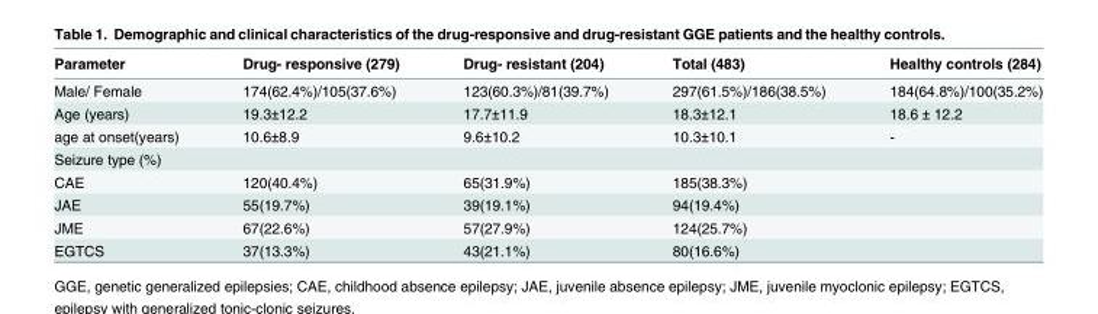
<table><thead><tr><td>Parameter</td><td>Drug- responsive (279)</td><td>Drug- resistant (204)</td><td>Total (483)</td><td>Healthy controls (284)</td></tr></thead><tbody><tr><td>Male/ Female</td><td>174(62.4%)/105(37.6%)</td><td>123(60.3%)/81(39.7%)</td><td>297(61.5%)/186(38.5%)</td><td>184(64.8%)/100(35.2%)</td></tr><tr><td>Age (years)</td><td>19.3±12.2</td><td>17.7±11.9</td><td>18.3±12.1</td><td>18.6 ± 12.2</td></tr><tr><td>age at onset(years)</td><td>10.6±8.9</td><td>9.6±10.2</td><td>10.3±10.1</td><td>-</td></tr><tr><td colspan="5">Seizure type (%)</td></tr><tr><td>CAE</td><td>120(40.4%)</td><td>65(31.9%)</td><td colspan="2">185(38.3%)</td></tr><tr><td>JAE</td><td>55(19.7%)</td><td>39(19.1%)</td><td colspan="2">94(19.4%)</td></tr><tr><td>JME</td><td>67(22.6%)</td><td>57(27.9%)</td><td colspan="2">124(25.7%)</td></tr><tr><td>EGTCS</td><td>37(13.3%)</td><td>43(21.1%)</td><td colspan="2">80(16.6%)</td></tr></tbody></table>